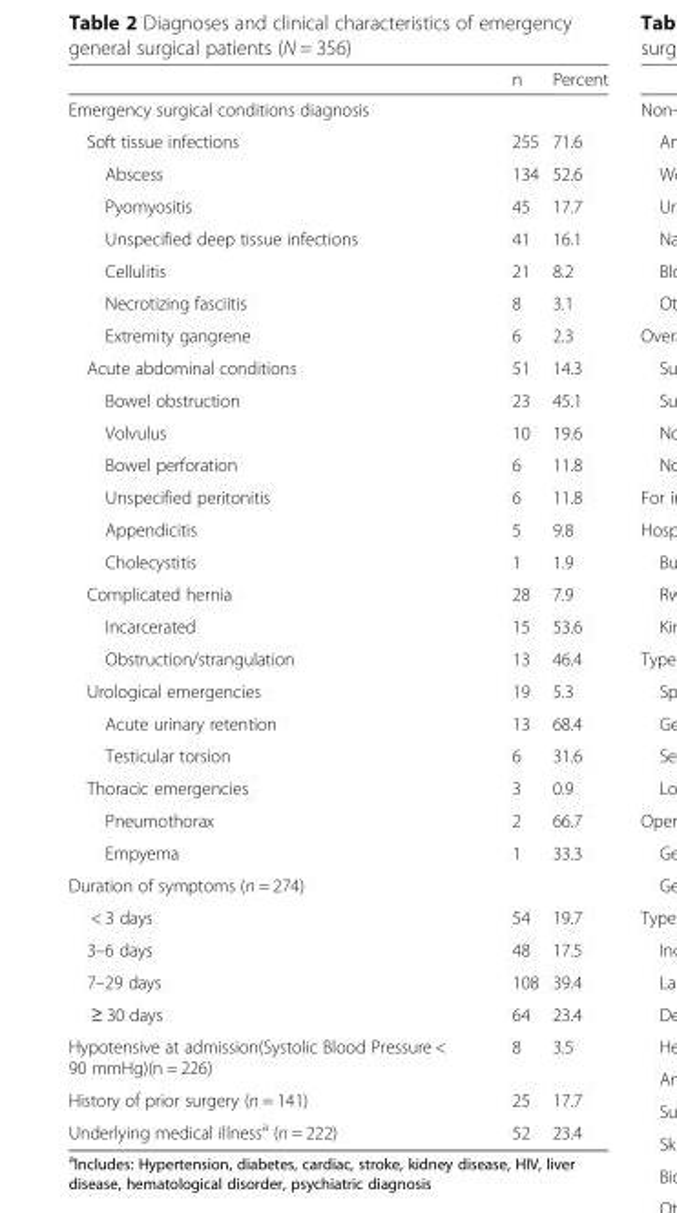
<table><thead><tr><td></td><td>n</td><td>Percent</td></tr></thead><tbody><tr><td colspan="3">Emergency surgical conditions diagnosis</td></tr><tr><td>Soft tissue infections</td><td>255</td><td>71.6</td></tr><tr><td>Abscess</td><td>134</td><td>52.6</td></tr><tr><td>Pyomyositis</td><td>45</td><td>17.7</td></tr><tr><td>Unspecified deep tissue infections</td><td>41</td><td>16.1</td></tr><tr><td>Cellulitis</td><td>21</td><td>8.2</td></tr><tr><td>Necrotizing fasciitis</td><td>8</td><td>3.1</td></tr><tr><td>Extremity gangrene</td><td>6</td><td>2.3</td></tr><tr><td>Acute abdominal conditions</td><td>51</td><td>14.3</td></tr><tr><td>Bowel obstruction</td><td>23</td><td>45.1</td></tr><tr><td>Volvulus</td><td>10</td><td>19.6</td></tr><tr><td>Bowel perforation</td><td>6</td><td>11.8</td></tr><tr><td>Unspecified peritonitis</td><td>6</td><td>11.8</td></tr><tr><td>Appendicitis</td><td>5</td><td>9.8</td></tr><tr><td>Cholecystitis</td><td>1</td><td>1.9</td></tr><tr><td>Complicated hernia</td><td>28</td><td>7.9</td></tr><tr><td>Incarcerated</td><td>15</td><td>53.6</td></tr><tr><td>Obstruction/strangulation</td><td>13</td><td>46.4</td></tr><tr><td>Urological emergencies</td><td>19</td><td>5.3</td></tr><tr><td>Acute urinary retention</td><td>13</td><td>68.4</td></tr><tr><td>Testicular torsion</td><td>6</td><td>31.6</td></tr><tr><td>Thoracic emergencies</td><td>3</td><td>0.9</td></tr><tr><td>Pneumothorax</td><td>2</td><td>66.7</td></tr><tr><td>Empyema</td><td>1</td><td>33.3</td></tr><tr><td colspan="3">Duration of symptoms (n = 274)</td></tr><tr><td>&lt; 3 days</td><td>54</td><td>19.7</td></tr><tr><td>3–6 days</td><td>48</td><td>17.5</td></tr><tr><td>7–29 days</td><td>108</td><td>39.4</td></tr><tr><td>≥ 30 days</td><td>64</td><td>23.4</td></tr><tr><td>Hypotensive at admission(Systolic Blood Pressure &lt; 90 mmHg)(n = 226)</td><td>8</td><td>3.5</td></tr><tr><td>History of prior surgery (n = 141)</td><td>25</td><td>17.7</td></tr><tr><td>Underlying medical illness<sup>a</sup> (n = 222)</td><td>52</td><td>23.4</td></tr></tbody></table>